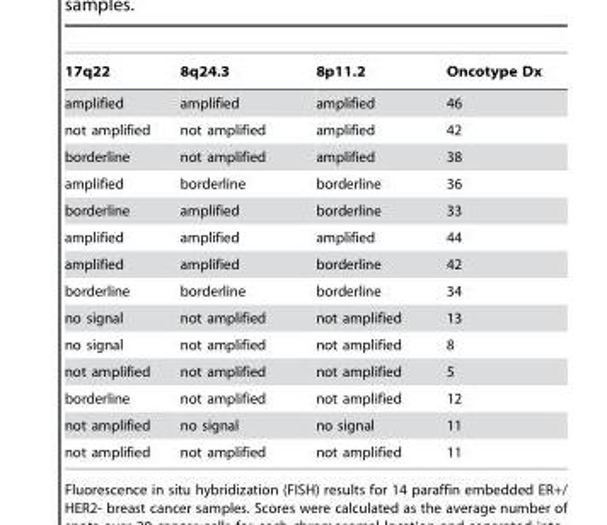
<table><thead><tr><td>17q22</td><td>8q24.3</td><td>8p11.2</td><td>Oncotype Dx</td></tr></thead><tbody><tr><td>amplified</td><td>amplified</td><td>amplified</td><td>46</td></tr><tr><td>not amplified</td><td>not amplified</td><td>amplified</td><td>42</td></tr><tr><td>borderline</td><td>not amplified</td><td>amplified</td><td>38</td></tr><tr><td>amplified</td><td>borderline</td><td>borderline</td><td>36</td></tr><tr><td>borderline</td><td>amplified</td><td>borderline</td><td>33</td></tr><tr><td>amplified</td><td>amplified</td><td>amplified</td><td>44</td></tr><tr><td>amplified</td><td>amplified</td><td>borderline</td><td>42</td></tr><tr><td>borderline</td><td>borderline</td><td>borderline</td><td>34</td></tr><tr><td>no signal</td><td>not amplified</td><td>not amplified</td><td>13</td></tr><tr><td>no signal</td><td>not amplified</td><td>not amplified</td><td>8</td></tr><tr><td>not amplified</td><td>not amplified</td><td>not amplified</td><td>5</td></tr><tr><td>borderline</td><td>not amplified</td><td>not amplified</td><td>12</td></tr><tr><td>not amplified</td><td>no signal</td><td>no signal</td><td>11</td></tr><tr><td>not amplified</td><td>not amplified</td><td>not amplified</td><td>11</td></tr></tbody></table>